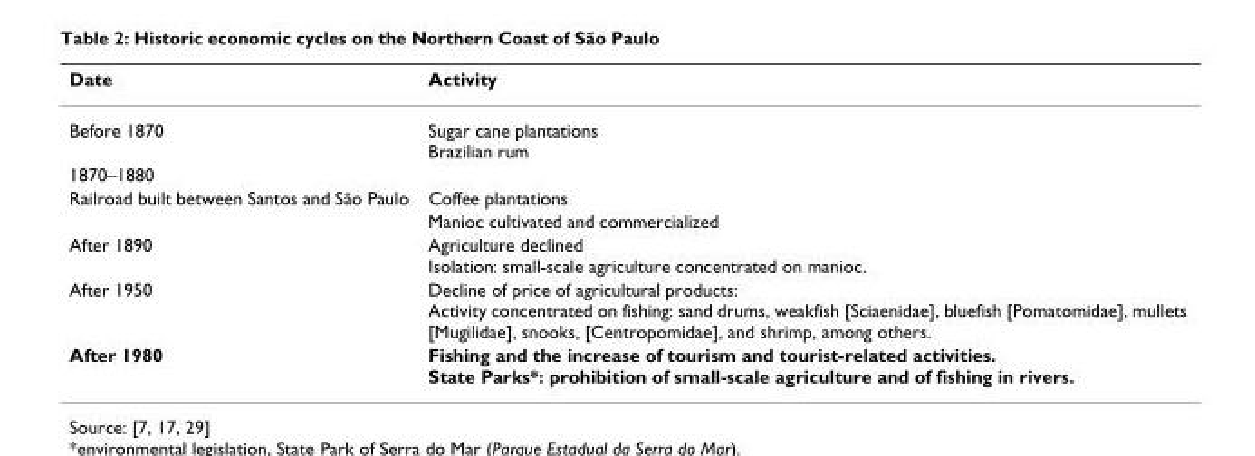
<table><thead><tr><td>Date</td><td>Activity</td></tr></thead><tbody><tr><td>Before 1870</td><td>Sugar cane plantations Brazilian rum</td></tr><tr><td colspan="2">1870–1880</td></tr><tr><td rowspan="2">Railroad built between Santos and São Paulo</td><td>Coffee plantations</td></tr><tr><td>Manioc cultivated and commercialized</td></tr><tr><td>After 1890</td><td>Agriculture declined Isolation: small-scale agriculture concentrated on manioc.</td></tr><tr><td>After 1950</td><td>Decline of price of agricultural products: Activity concentrated on fishing: sand drums, weakfish [Sciaenidae], bluefish [Pomatomidae], mullets [Mugilidae], snooks, [Centropomidae], and shrimp, among others.</td></tr><tr><td>After 1980</td><td>Fishing and the increase of tourism and tourist-related activities. State Parks*: prohibition of small-scale agriculture and of fishing in rivers.</td></tr></tbody></table>